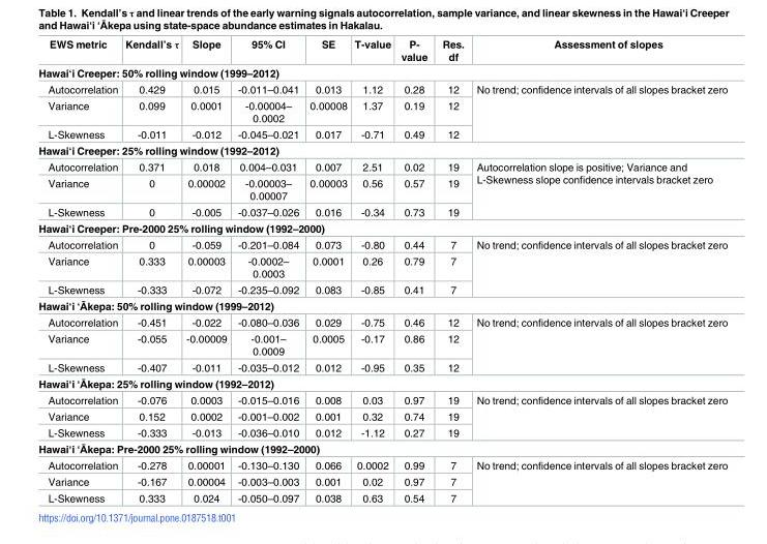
<table><thead><tr><td>EWS metric</td><td>Kendall’s τ</td><td>Slope</td><td>95% CI</td><td>SE</td><td>T-value</td><td>P- value</td><td>Res. df</td><td>Assessment of slopes</td></tr></thead><tbody><tr><td colspan="9">Hawai‘i Creeper: 50% rolling window (1999–2012)</td></tr><tr><td>Autocorrelation</td><td>0.429</td><td>0.015</td><td>-0.011–0.041</td><td>0.013</td><td>1.12</td><td>0.28</td><td>12</td><td rowspan="3">No trend; confidence intervals of all slopes bracket zero</td></tr><tr><td>Variance</td><td>0.099</td><td>0.0001</td><td>-0.00004– 0.0002</td><td>0.00008</td><td>1.37</td><td>0.19</td><td>12</td></tr><tr><td>L-Skewness</td><td>-0.011</td><td>-0.012</td><td>-0.045–0.021</td><td>0.017</td><td>-0.71</td><td>0.49</td><td>12</td></tr><tr><td colspan="9">Hawai‘i Creeper: 25% rolling window (1992–2012)</td></tr><tr><td>Autocorrelation</td><td>0.371</td><td>0.018</td><td>0.004–0.031</td><td>0.007</td><td>2.51</td><td>0.02</td><td>19</td><td rowspan="3">Autocorrelation slope is positive; Variance and L-Skewness slope confidence intervals bracket zero</td></tr><tr><td>Variance</td><td>0</td><td>0.00002</td><td>-0.00003– 0.00007</td><td>0.00003</td><td>0.56</td><td>0.57</td><td>19</td></tr><tr><td>L-Skewness</td><td>0</td><td>-0.005</td><td>-0.037–0.026</td><td>0.016</td><td>-0.34</td><td>0.73</td><td>19</td></tr><tr><td colspan="9">Hawai‘i Creeper: Pre-2000 25% rolling window (1992–2000)</td></tr><tr><td>Autocorrelation</td><td>0</td><td>-0.059</td><td>-0.201–0.084</td><td>0.073</td><td>-0.80</td><td>0.44</td><td>7</td><td rowspan="3">No trend; confidence intervals of all slopes bracket zero</td></tr><tr><td>Variance</td><td>0.333</td><td>0.00003</td><td>-0.0002– 0.0003</td><td>0.0001</td><td>0.26</td><td>0.79</td><td>7</td></tr><tr><td>L-Skewness</td><td>-0.333</td><td>-0.072</td><td>-0.235–0.092</td><td>0.083</td><td>-0.85</td><td>0.41</td><td>7</td></tr><tr><td colspan="9">Hawai‘i ‘Ākepa: 50% rolling window (1999–2012)</td></tr><tr><td>Autocorrelation</td><td>-0.451</td><td>-0.022</td><td>-0.080–0.036</td><td>0.029</td><td>-0.75</td><td>0.46</td><td>12</td><td rowspan="3">No trend; confidence intervals of all slopes bracket zero</td></tr><tr><td>Variance</td><td>-0.055</td><td>-0.00009</td><td>-0.001– 0.0009</td><td>0.0005</td><td>-0.17</td><td>0.86</td><td>12</td></tr><tr><td>L-Skewness</td><td>-0.407</td><td>-0.011</td><td>-0.035–0.012</td><td>0.012</td><td>-0.95</td><td>0.35</td><td>12</td></tr><tr><td colspan="9">Hawai‘i ‘Ākepa: 25% rolling window (1992–2012)</td></tr><tr><td>Autocorrelation</td><td>-0.076</td><td>0.0003</td><td>-0.015–0.016</td><td>0.008</td><td>0.03</td><td>0.97</td><td>19</td><td rowspan="3">No trend; confidence intervals of all slopes bracket zero</td></tr><tr><td>Variance</td><td>0.152</td><td>0.0002</td><td>-0.001–0.002</td><td>0.001</td><td>0.32</td><td>0.74</td><td>19</td></tr><tr><td>L-Skewness</td><td>-0.333</td><td>-0.013</td><td>-0.036–0.010</td><td>0.012</td><td>-1.12</td><td>0.27</td><td>19</td></tr><tr><td colspan="9">Hawai‘i ‘Ākepa: Pre-2000 25% rolling window (1992–2000)</td></tr><tr><td>Autocorrelation</td><td>-0.278</td><td>0.00001</td><td>-0.130–0.130</td><td>0.066</td><td>0.0002</td><td>0.99</td><td>7</td><td rowspan="3">No trend; confidence intervals of all slopes bracket zero</td></tr><tr><td>Variance</td><td>-0.167</td><td>0.00004</td><td>-0.003–0.003</td><td>0.001</td><td>0.02</td><td>0.97</td><td>7</td></tr><tr><td>L-Skewness</td><td>0.333</td><td>0.024</td><td>-0.050–0.097</td><td>0.038</td><td>0.63</td><td>0.54</td><td>7</td></tr></tbody></table>